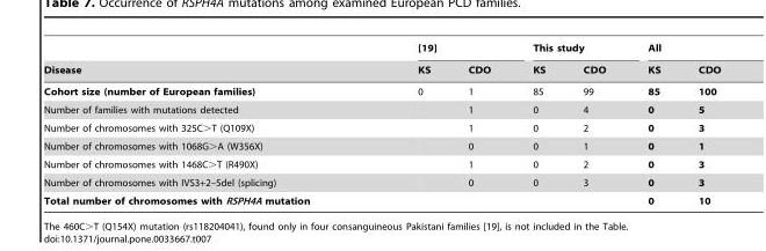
<table><thead><tr><td rowspan="2">Disease</td><td colspan="2">[19]</td><td colspan="2">This study</td><td colspan="2">All</td></tr><tr><td>KS</td><td>CDO</td><td>KS</td><td>CDO</td><td>KS</td><td>CDO</td></tr></thead><tbody><tr><td>Cohort size (number of European families)</td><td>0</td><td>1</td><td>85</td><td>99</td><td>85</td><td>100</td></tr><tr><td>Number of families with mutations detected</td><td></td><td>1</td><td>0</td><td>4</td><td>0</td><td>5</td></tr><tr><td>Number of chromosomes with 325C&gt;T (Q109X)</td><td></td><td>1</td><td>0</td><td>2</td><td>0</td><td>3</td></tr><tr><td>Number of chromosomes with 1068G&gt;A (W356X)</td><td></td><td>0</td><td>0</td><td>1</td><td>0</td><td>1</td></tr><tr><td>Number of chromosomes with 1468C&gt;T (R490X)</td><td></td><td>1</td><td>0</td><td>2</td><td>0</td><td>3</td></tr><tr><td>Number of chromosomes with IVS3+2–5del (splicing)</td><td></td><td>0</td><td>0</td><td>3</td><td>0</td><td>3</td></tr><tr><td>Total number of chromosomes with RSPH4A mutation</td><td></td><td></td><td></td><td></td><td>0</td><td>10</td></tr></tbody></table>